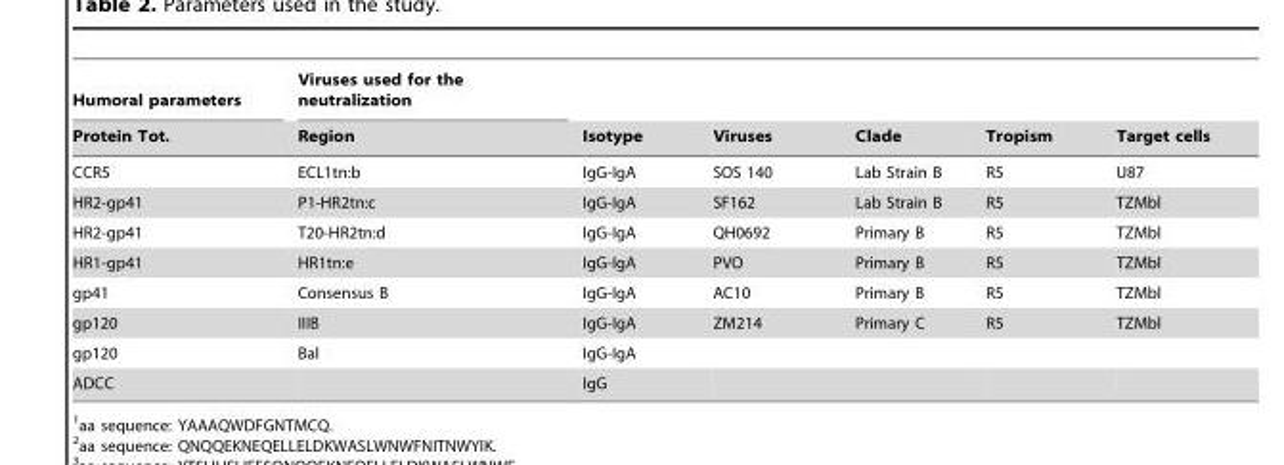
<table><thead><tr><td rowspan="2">Humoral parameters Protein Tot.</td><td rowspan="2">Viruses used for the neutralization Region</td><td rowspan="2">Isotype</td><td rowspan="2">Viruses</td><td rowspan="2">Clade</td><td rowspan="2">Tropism</td><td rowspan="2">Target cells</td></tr><tr></tr></thead><tbody><tr><td>CCR5</td><td>ECL1tn:b</td><td>IgG-IgA</td><td>SOS 140</td><td>Lab Strain B</td><td>R5</td><td>U87</td></tr><tr><td>HR2-gp41</td><td>P1-HR2tn:c</td><td>IgG-IgA</td><td>SF162</td><td>Lab Strain B</td><td>R5</td><td>TZMbl</td></tr><tr><td>HR2-gp41</td><td>T20-HR2tn:d</td><td>IgG-IgA</td><td>QH0692</td><td>Primary B</td><td>R5</td><td>TZMbl</td></tr><tr><td>HR1-gp41</td><td>HR1tn:e</td><td>IgG-IgA</td><td>PVO</td><td>Primary B</td><td>R5</td><td>TZMbl</td></tr><tr><td>gp41</td><td>Consensus B</td><td>IgG-IgA</td><td>AC10</td><td>Primary B</td><td>R5</td><td>TZMbl</td></tr><tr><td>gp120</td><td>IIIB</td><td>IgG-IgA</td><td>ZM214</td><td>Primary C</td><td>R5</td><td>TZMbl</td></tr><tr><td>gp120</td><td>Bal</td><td>IgG-IgA</td><td></td><td></td><td></td><td></td></tr><tr><td>ADCC</td><td></td><td>IgG</td><td></td><td></td><td></td><td></td></tr></tbody></table>